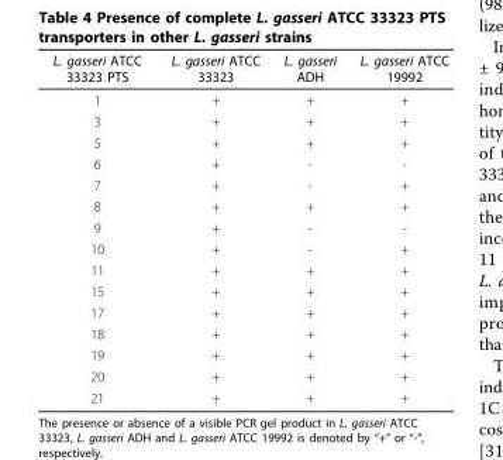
<table><thead><tr><td>L. gasseri ATCC 33323 PTS</td><td>L. gasseri ATCC 33323</td><td>L. gasseri ADH</td><td>L. gasseri ATCC 19992</td></tr></thead><tbody><tr><td>1</td><td>+</td><td>+</td><td>+</td></tr><tr><td>3</td><td>+</td><td>+</td><td>+</td></tr><tr><td>5</td><td>+</td><td>+</td><td>+</td></tr><tr><td>6</td><td>+</td><td>-</td><td>-</td></tr><tr><td>7</td><td>+</td><td>-</td><td>+</td></tr><tr><td>8</td><td>+</td><td>+</td><td>+</td></tr><tr><td>9</td><td>+</td><td>-</td><td>-</td></tr><tr><td>10</td><td>+</td><td>-</td><td>+</td></tr><tr><td>11</td><td>+</td><td>+</td><td>+</td></tr><tr><td>15</td><td>+</td><td>+</td><td>+</td></tr><tr><td>17</td><td>+</td><td>+</td><td>+</td></tr><tr><td>18</td><td>+</td><td>+</td><td>+</td></tr><tr><td>19</td><td>+</td><td>+</td><td>+</td></tr><tr><td>20</td><td>+</td><td>+</td><td>+</td></tr><tr><td>21</td><td>+</td><td>+</td><td>+</td></tr></tbody></table>